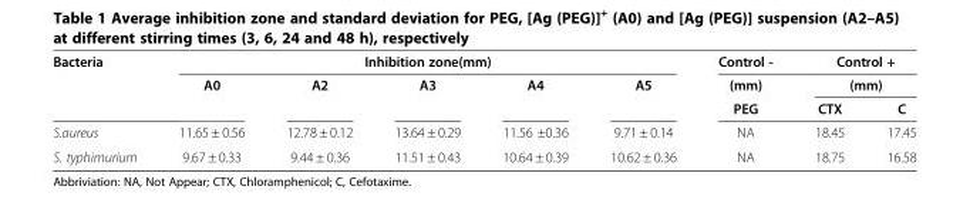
<table><thead><tr><td rowspan="3">Bacteria</td><td colspan="5">Inhibition zone(mm)</td><td rowspan="3">Control - (mm) PEG</td><td rowspan="2" colspan="2">Control + (mm)</td></tr><tr><td rowspan="2">A0</td><td rowspan="2">A2</td><td rowspan="2">A3</td><td rowspan="2">A4</td><td rowspan="2">A5</td></tr><tr><td>CTX</td><td>C</td></tr></thead><tbody><tr><td>S.aureus</td><td>11.65 ± 0.56</td><td>12.78 ± 0.12</td><td>13.64 ± 0.29</td><td>11.56 ±0.36</td><td>9.71 ± 0.14</td><td>NA</td><td>18.45</td><td>17.45</td></tr><tr><td>S. typhimurium</td><td>9.67 ± 0.33</td><td>9.44 ± 0.36</td><td>11.51 ± 0.43</td><td>10.64 ± 0.39</td><td>10.62 ± 0.36</td><td>NA</td><td>18.75</td><td>16.58</td></tr></tbody></table>